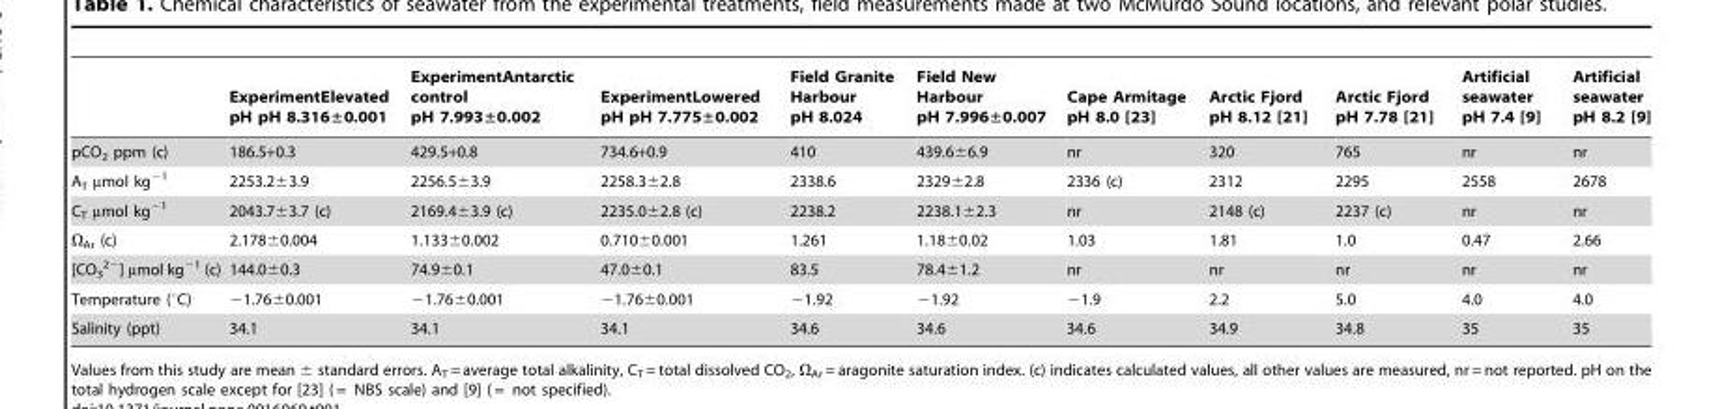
<table><thead><tr><td></td><td>ExperimentElevated pH pH 8.316±0.001</td><td>ExperimentAntarctic control pH 7.993±0.002</td><td>ExperimentLowered pH pH 7.775±0.002</td><td>Field Granite Harbour pH 8.024</td><td>Field New Harbour pH 7.996±0.007</td><td>Cape Armitage pH 8.0 [23]</td><td>Arctic Fjord pH 8.12 [21]</td><td>Arctic Fjord pH 7.78 [21]</td><td>Artificial seawater pH 7.4 [9]</td><td>Artificial seawater pH 8.2 [9]</td></tr></thead><tbody><tr><td>pCO<sub>2</sub> ppm (c)</td><td>186.5+0.3</td><td>429.5+0.8</td><td>734.6+0.9</td><td>410</td><td>439.6±6.9</td><td>nr</td><td>320</td><td>765</td><td>nr</td><td>nr</td></tr><tr><td>A<sub>T</sub> µmol kg<sup>−1</sup></td><td>2253.2±3.9</td><td>2256.5±3.9</td><td>2258.3±2.8</td><td>2338.6</td><td>2329±2.8</td><td>2336 (c)</td><td>2312</td><td>2295</td><td>2558</td><td>2678</td></tr><tr><td>C<sub>T</sub> µmol kg<sup>−1</sup></td><td>2043.7±3.7 (c)</td><td>2169.4±3.9 (c)</td><td>2235.0±2.8 (c)</td><td>2238.2</td><td>2238.1±2.3</td><td>nr</td><td>2148 (c)</td><td>2237 (c)</td><td>nr</td><td>nr</td></tr><tr><td>Ω<sub>Ar</sub> (c)</td><td>2.178±0.004</td><td>1.133±0.002</td><td>0.710±0.001</td><td>1.261</td><td>1.18±0.02</td><td>1.03</td><td>1.81</td><td>1.0</td><td>0.47</td><td>2.66</td></tr><tr><td>[CO<sub>3</sub> <sup>2−</sup>] µmol kg<sup>−1</sup> (c)</td><td>144.0±0.3</td><td>74.9±0.1</td><td>47.0±0.1</td><td>83.5</td><td>78.4±1.2</td><td>nr</td><td>nr</td><td>nr</td><td>nr</td><td>nr</td></tr><tr><td>Temperature (°C)</td><td>−1.76±0.001</td><td>−1.76±0.001</td><td>−1.76±0.001</td><td>−1.92</td><td>−1.92</td><td>−1.9</td><td>2.2</td><td>5.0</td><td>4.0</td><td>4.0</td></tr><tr><td>Salinity (ppt)</td><td>34.1</td><td>34.1</td><td>34.1</td><td>34.6</td><td>34.6</td><td>34.6</td><td>34.9</td><td>34.8</td><td>35</td><td>35</td></tr></tbody></table>